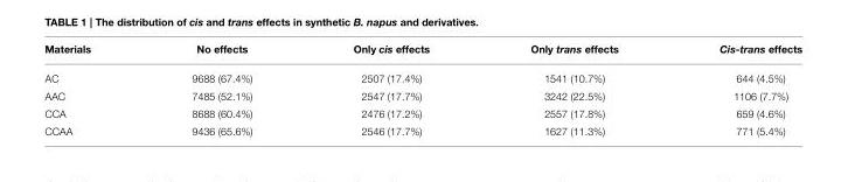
<table><thead><tr><td>Materials</td><td>No effects</td><td>Only cis effects</td><td>Only trans effects</td><td>Cis-trans effects</td></tr></thead><tbody><tr><td>AC</td><td>9688 (67.4%)</td><td>2507 (17.4%)</td><td>1541 (10.7%)</td><td>644 (4.5%)</td></tr><tr><td>AAC</td><td>7485 (52.1%)</td><td>2547 (17.7%)</td><td>3242 (22.5%)</td><td>1106 (7.7%)</td></tr><tr><td>CCA</td><td>8688 (60.4%)</td><td>2476 (17.2%)</td><td>2557 (17.8%)</td><td>659 (4.6%)</td></tr><tr><td>CCAA</td><td>9436 (65.6%)</td><td>2546 (17.7%)</td><td>1627 (11.3%)</td><td>771 (5.4%)</td></tr></tbody></table>